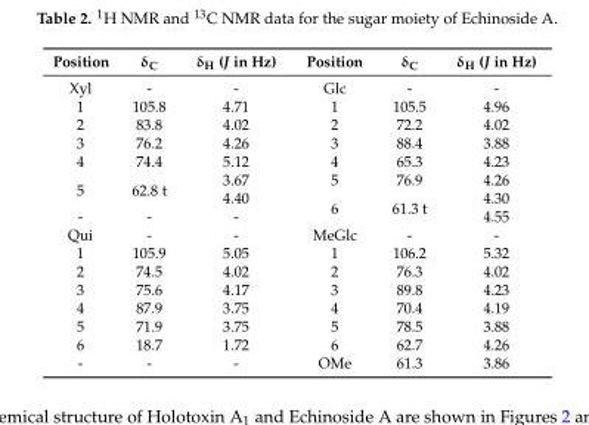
<table><thead><tr><td>Position</td><td>δ<sub>C</sub></td><td>δ<sub>H</sub> (J in Hz)</td><td>Position</td><td>δ<sub>C</sub></td><td>δ<sub>H</sub> (J in Hz)</td></tr></thead><tbody><tr><td>Xyl</td><td>-</td><td>-</td><td>Glc</td><td>-</td><td>-</td></tr><tr><td>1</td><td>105.8</td><td>4.71</td><td>1</td><td>105.5</td><td>4.96</td></tr><tr><td>2</td><td>83.8</td><td>4.02</td><td>2</td><td>72.2</td><td>4.02</td></tr><tr><td>3</td><td>76.2</td><td>4.26</td><td>3</td><td>88.4</td><td>3.88</td></tr><tr><td>4</td><td>74.4</td><td>5.12</td><td>4</td><td>65.3</td><td>4.23</td></tr><tr><td rowspan="2">5</td><td rowspan="2">62.8 t</td><td>3.67</td><td>5</td><td>76.9</td><td>4.26</td></tr><tr><td>4.40</td><td rowspan="2">6</td><td rowspan="2">61.3 t</td><td>4.30</td></tr><tr><td>-</td><td>-</td><td>-</td><td>4.55</td></tr><tr><td>Qui</td><td>-</td><td>-</td><td>MeGlc</td><td>-</td><td>-</td></tr><tr><td>1</td><td>105.9</td><td>5.05</td><td>1</td><td>106.2</td><td>5.32</td></tr><tr><td>2</td><td>74.5</td><td>4.02</td><td>2</td><td>76.3</td><td>4.02</td></tr><tr><td>3</td><td>75.6</td><td>4.17</td><td>3</td><td>89.8</td><td>4.23</td></tr><tr><td>4</td><td>87.9</td><td>3.75</td><td>4</td><td>70.4</td><td>4.19</td></tr><tr><td>5</td><td>71.9</td><td>3.75</td><td>5</td><td>78.5</td><td>3.88</td></tr><tr><td>6</td><td>18.7</td><td>1.72</td><td>6</td><td>62.7</td><td>4.26</td></tr><tr><td>-</td><td>-</td><td>-</td><td>OMe</td><td>61.3</td><td>3.86</td></tr></tbody></table>